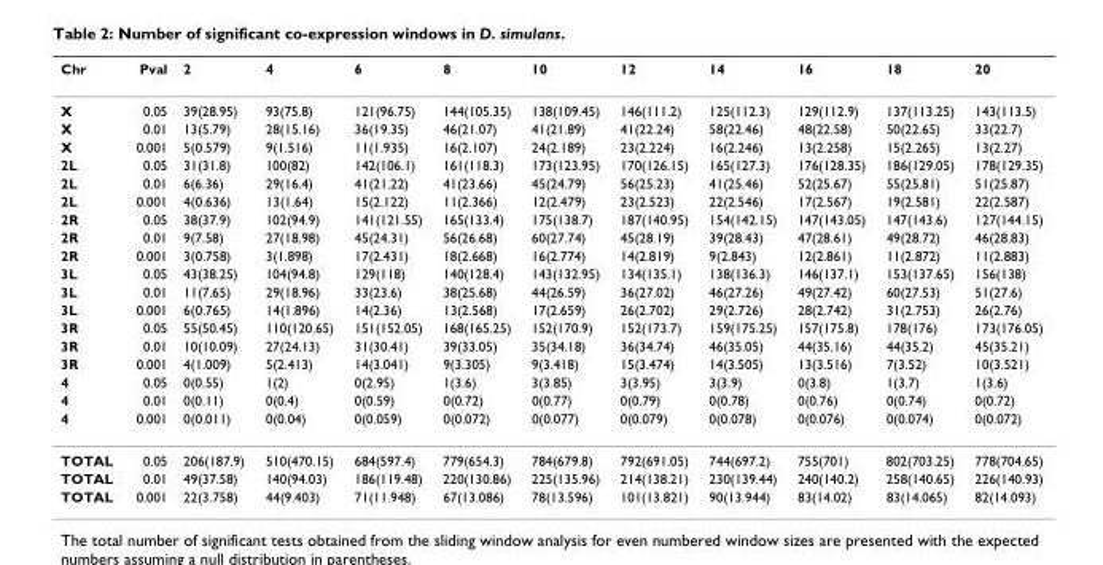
<table><thead><tr><td>Chr</td><td>Pval</td><td>2</td><td>4</td><td>6</td><td>8</td><td>10</td><td>12</td><td>14</td><td>16</td><td>18</td><td>20</td></tr></thead><tbody><tr><td>X</td><td>0.05</td><td>39(28.95)</td><td>93(75.8)</td><td>121(96.75)</td><td>144(105.35)</td><td>138(109.45)</td><td>146(111.2)</td><td>125(112.3)</td><td>129(112.9)</td><td>137(113.25)</td><td>143(113.5)</td></tr><tr><td>X</td><td>0.01</td><td>13(5.79)</td><td>28(15.16)</td><td>36(19.35)</td><td>46(21.07)</td><td>41(21.89)</td><td>41(22.24)</td><td>58(22.46)</td><td>48(22.58)</td><td>50(22.65)</td><td>33(22.7)</td></tr><tr><td>X</td><td>0.001</td><td>5(0.579)</td><td>9(1.516)</td><td>11(1.935)</td><td>16(2.107)</td><td>24(2.189)</td><td>23(2.224)</td><td>16(2.246)</td><td>13(2.258)</td><td>15(2.265)</td><td>13(2.27)</td></tr><tr><td>2L</td><td>0.05</td><td>31(31.8)</td><td>100(82)</td><td>142(106.1)</td><td>161(118.3)</td><td>173(123.95)</td><td>170(126.15)</td><td>165(127.3)</td><td>176(128.35)</td><td>186(129.05)</td><td>178(129.35)</td></tr><tr><td>2L</td><td>0.01</td><td>6(6.36)</td><td>29(16.4)</td><td>41(21.22)</td><td>41(23.66)</td><td>45(24.79)</td><td>56(25.23)</td><td>41(25.46)</td><td>52(25.67)</td><td>55(25.81)</td><td>51(25.87)</td></tr><tr><td>2L</td><td>0.001</td><td>4(0.636)</td><td>13(1.64)</td><td>15(2.122)</td><td>11(2.366)</td><td>12(2.479)</td><td>23(2.523)</td><td>22(2.546)</td><td>17(2.567)</td><td>19(2.581)</td><td>22(2.587)</td></tr><tr><td>2R</td><td>0.05</td><td>38(37.9)</td><td>102(94.9)</td><td>141(121.55)</td><td>165(133.4)</td><td>175(138.7)</td><td>187(140.95)</td><td>154(142.15)</td><td>147(143.05)</td><td>147(143.6)</td><td>127(144.15)</td></tr><tr><td>2R</td><td>0.01</td><td>9(7.58)</td><td>27(18.98)</td><td>45(24.31)</td><td>56(26.68)</td><td>60(27.74)</td><td>45(28.19)</td><td>39(28.43)</td><td>47(28.61)</td><td>49(28.72)</td><td>46(28.83)</td></tr><tr><td>2R</td><td>0.001</td><td>3(0.758)</td><td>3(1.898)</td><td>17(2.431)</td><td>18(2.668)</td><td>16(2.774)</td><td>14(2.819)</td><td>9(2.843)</td><td>12(2.861)</td><td>11(2.872)</td><td>11(2.883)</td></tr><tr><td>3L</td><td>0.05</td><td>43(38.25)</td><td>104(94.8)</td><td>129(118)</td><td>140(128.4)</td><td>143(132.95)</td><td>134(135.1)</td><td>138(136.3)</td><td>146(137.1)</td><td>153(137.65)</td><td>156(138)</td></tr><tr><td>3L</td><td>0.01</td><td>11(7.65)</td><td>29(18.96)</td><td>33(23.6)</td><td>38(25.68)</td><td>44(26.59)</td><td>36(27.02)</td><td>46(27.26)</td><td>49(27.42)</td><td>60(27.53)</td><td>51(27.6)</td></tr><tr><td>3L</td><td>0.001</td><td>6(0.765)</td><td>14(1.896)</td><td>14(2.36)</td><td>13(2.568)</td><td>17(2.659)</td><td>26(2.702)</td><td>29(2.726)</td><td>28(2.742)</td><td>31(2.753)</td><td>26(2.76)</td></tr><tr><td>3R</td><td>0.05</td><td>55(50.45)</td><td>110(120.65)</td><td>151(152.05)</td><td>168(165.25)</td><td>152(170.9)</td><td>152(173.7)</td><td>159(175.25)</td><td>157(175.8)</td><td>178(176)</td><td>173(176.05)</td></tr><tr><td>3R</td><td>0.01</td><td>10(10.09)</td><td>27(24.13)</td><td>31(30.41)</td><td>39(33.05)</td><td>35(34.18)</td><td>36(34.74)</td><td>46(35.05)</td><td>44(35.16)</td><td>44(35.2)</td><td>45(35.21)</td></tr><tr><td>3R</td><td>0.001</td><td>4(1.009)</td><td>5(2.413)</td><td>14(3.041)</td><td>9(3.305)</td><td>9(3.418)</td><td>15(3.474)</td><td>14(3.505)</td><td>13(3.516)</td><td>7(3.52)</td><td>10(3.521)</td></tr><tr><td>4</td><td>0.05</td><td>0(0.55)</td><td>1(2)</td><td>0(2.95)</td><td>1(3.6)</td><td>3(3.85)</td><td>3(3.95)</td><td>3(3.9)</td><td>0(3.8)</td><td>1(3.7)</td><td>1(3.6)</td></tr><tr><td>4</td><td>0.01</td><td>0(0.11)</td><td>0(0.4)</td><td>0(0.59)</td><td>0(0.72)</td><td>0(0.77)</td><td>0(0.79)</td><td>0(0.78)</td><td>0(0.76)</td><td>0(0.74)</td><td>0(0.72)</td></tr><tr><td>4</td><td>0.001</td><td>0(0.011)</td><td>0(0.04)</td><td>0(0.059)</td><td>0(0.072)</td><td>0(0.077)</td><td>0(0.079)</td><td>0(0.078)</td><td>0(0.076)</td><td>0(0.074)</td><td>0(0.072)</td></tr><tr><td>TOTAL</td><td>0.05</td><td>206(187.9)</td><td>510(470.15)</td><td>684(597.4)</td><td>779(654.3)</td><td>784(679.8)</td><td>792(691.05)</td><td>744(697.2)</td><td>755(701)</td><td>802(703.25)</td><td>778(704.65)</td></tr><tr><td>TOTAL</td><td>0.01</td><td>49(37.58)</td><td>140(94.03)</td><td>186(119.48)</td><td>220(130.86)</td><td>225(135.96)</td><td>214(138.21)</td><td>230(139.44)</td><td>240(140.2)</td><td>258(140.65)</td><td>226(140.93)</td></tr><tr><td>TOTAL</td><td>0.001</td><td>22(3.758)</td><td>44(9.403)</td><td>71(11.948)</td><td>67(13.086)</td><td>78(13.596)</td><td>101(13.821)</td><td>90(13.944)</td><td>83(14.02)</td><td>83(14.065)</td><td>82(14.093)</td></tr></tbody></table>